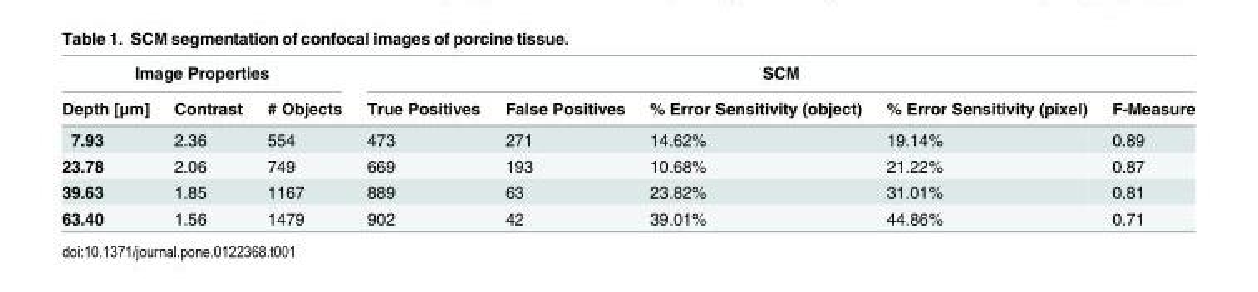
<table><thead><tr><td colspan="3">Image Properties</td><td colspan="5">SCM</td></tr><tr><td>Depth [μm]</td><td>Contrast</td><td># Objects</td><td>True Positives</td><td>False Positives</td><td>% Error Sensitivity (object)</td><td>% Error Sensitivity (pixel)</td><td>F-Measure</td></tr></thead><tbody><tr><td>7.93</td><td>2.36</td><td>554</td><td>473</td><td>271</td><td>14.62%</td><td>19.14%</td><td>0.89</td></tr><tr><td>23.78</td><td>2.06</td><td>749</td><td>669</td><td>193</td><td>10.68%</td><td>21.22%</td><td>0.87</td></tr><tr><td>39.63</td><td>1.85</td><td>1167</td><td>889</td><td>63</td><td>23.82%</td><td>31.01%</td><td>0.81</td></tr><tr><td>63.40</td><td>1.56</td><td>1479</td><td>902</td><td>42</td><td>39.01%</td><td>44.86%</td><td>0.71</td></tr></tbody></table>